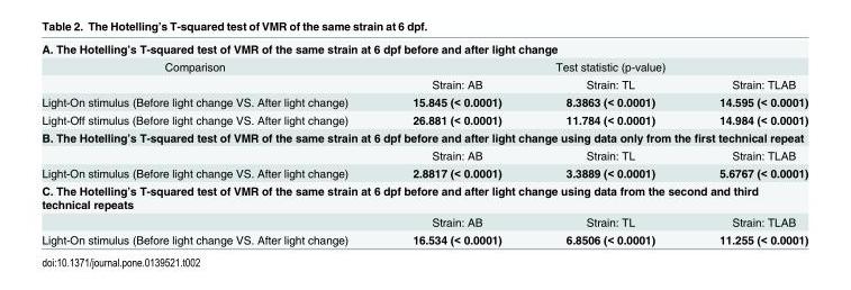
<table><tbody><tr><td colspan="4">A. The Hotelling’s T-squared test of VMR of the same strain at 6 dpf before and after light change</td></tr><tr><td rowspan="2">Comparison</td><td colspan="3">Test statistic (p-value)</td></tr><tr><td>Strain: AB</td><td>Strain: TL</td><td>Strain: TLAB</td></tr><tr><td>Light-On stimulus (Before light change VS. After light change)</td><td>15.845 (&lt; 0.0001)</td><td>8.3863 (&lt; 0.0001)</td><td>14.595 (&lt; 0.0001)</td></tr><tr><td>Light-Off stimulus (Before light change VS. After light change)</td><td>26.881 (&lt; 0.0001)</td><td>11.784 (&lt; 0.0001)</td><td>14.984 (&lt; 0.0001)</td></tr><tr><td colspan="4">B. The Hotelling’s T-squared test of VMR of the same strain at 6 dpf before and after light change using data only from the first technical repeat</td></tr><tr><td></td><td>Strain: AB</td><td>Strain: TL</td><td>Strain: TLAB</td></tr><tr><td>Light-On stimulus (Before light change VS. After light change)</td><td>2.8817 (&lt; 0.0001)</td><td>3.3889 (&lt; 0.0001)</td><td>5.6767 (&lt; 0.0001)</td></tr><tr><td colspan="4">C. The Hotelling’s T-squared test of VMR of the same strain at 6 dpf before and after light change using data from the second and third technical repeats</td></tr><tr><td></td><td>Strain: AB</td><td>Strain: TL</td><td>Strain: TLAB</td></tr><tr><td>Light-On stimulus (Before light change VS. After light change)</td><td>16.534 (&lt; 0.0001)</td><td>6.8506 (&lt; 0.0001)</td><td>11.255 (&lt; 0.0001)</td></tr></tbody></table>